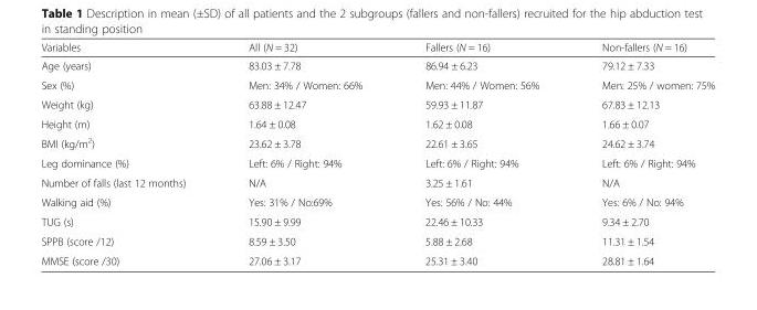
<table><thead><tr><td>Variables</td><td>All (N = 32)</td><td>Fallers (N = 16)</td><td>Non-fallers (N = 16)</td></tr></thead><tbody><tr><td>Age (years)</td><td>83.03 ± 7.78</td><td>86.94 ± 6.23</td><td>79.12 ± 7.33</td></tr><tr><td>Sex (%)</td><td>Men: 34% / Women: 66%</td><td>Men: 44% / Women: 56%</td><td>Men: 25% / women: 75%</td></tr><tr><td>Weight (kg)</td><td>63.88 ± 12.47</td><td>59.93 ± 11.87</td><td>67.83 ± 12.13</td></tr><tr><td>Height (m)</td><td>1.64 ± 0.08</td><td>1.62 ± 0.08</td><td>1.66 ± 0.07</td></tr><tr><td>BMI (kg/m<sup>2</sup>)</td><td>23.62 ± 3.78</td><td>22.61 ± 3.65</td><td>24.62 ± 3.74</td></tr><tr><td>Leg dominance (%)</td><td>Left: 6% / Right: 94%</td><td>Left: 6% / Right: 94%</td><td>Left: 6% / Right: 94%</td></tr><tr><td>Number of falls (last 12 months)</td><td>N/A</td><td>3.25 ± 1.61</td><td>N/A</td></tr><tr><td>Walking aid (%)</td><td>Yes: 31% / No:69%</td><td>Yes: 56% / No: 44%</td><td>Yes: 6% / No: 94%</td></tr><tr><td>TUG (s)</td><td>15.90 ± 9.99</td><td>22.46 ± 10.33</td><td>9.34 ± 2.70</td></tr><tr><td>SPPB (score /12)</td><td>8.59 ± 3.50</td><td>5.88 ± 2.68</td><td>11.31 ± 1.54</td></tr><tr><td>MMSE (score /30)</td><td>27.06 ± 3.17</td><td>25.31 ± 3.40</td><td>28.81 ± 1.64</td></tr></tbody></table>